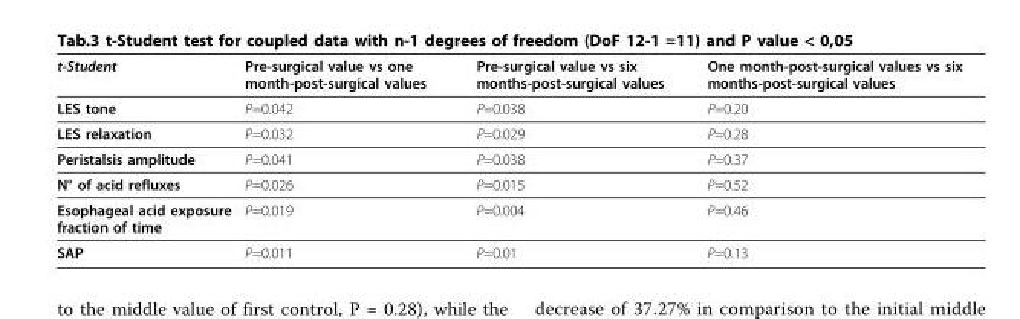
<table><thead><tr><td>t-Student</td><td>Pre-surgical value vs one month-post-surgical values</td><td>Pre-surgical value vs six months-post-surgical values</td><td>One month-post-surgical values vs six months-post-surgical values</td></tr></thead><tbody><tr><td>LES tone</td><td>P=0.042</td><td>P=0.038</td><td>P=0.20</td></tr><tr><td>LES relaxation</td><td>P=0.032</td><td>P=0.029</td><td>P=0.28</td></tr><tr><td>Peristalsis amplitude</td><td>P=0.041</td><td>P=0.038</td><td>P=0.37</td></tr><tr><td>N° of acid refluxes</td><td>P=0.026</td><td>P=0.015</td><td>P=0.52</td></tr><tr><td>Esophageal acid exposure fraction of time</td><td>P=0.019</td><td>P=0.004</td><td>P=0.46</td></tr><tr><td>SAP</td><td>P=0.011</td><td>P=0.01</td><td>P=0.13</td></tr></tbody></table>